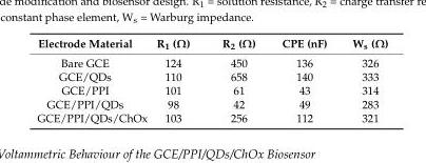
<table><thead><tr><td>Electrode Material</td><td>R1 (Ω)</td><td>R2 (Ω)</td><td>CPE (nF)</td><td>Ws (Ω)</td></tr></thead><tbody><tr><td>Bare GCE</td><td>124</td><td>450</td><td>136</td><td>326</td></tr><tr><td>GCE/QDs</td><td>110</td><td>658</td><td>140</td><td>333</td></tr><tr><td>GCE/PPI</td><td>101</td><td>61</td><td>43</td><td>314</td></tr><tr><td>GCE/PPI/QDs</td><td>98</td><td>42</td><td>49</td><td>283</td></tr><tr><td>GCE/PPI/QDs/ChOx</td><td>103</td><td>256</td><td>112</td><td>321</td></tr></tbody></table>